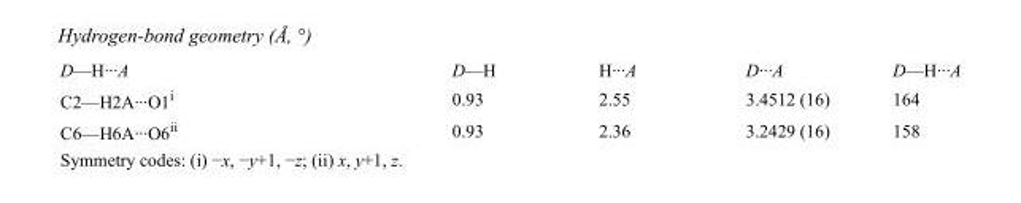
<table><tbody><tr><td>D—H···A</td><td>D—H</td><td>H···A</td><td>D···A</td><td>D—H···A</td></tr><tr><td>C2—H2A···O1<sup>i</sup></td><td>0.93</td><td>2.55</td><td>3.4512 (16)</td><td>164</td></tr><tr><td>C6—H6A···O6<sup>ii</sup></td><td>0.93</td><td>2.36</td><td>3.2429 (16)</td><td>158</td></tr></tbody></table>